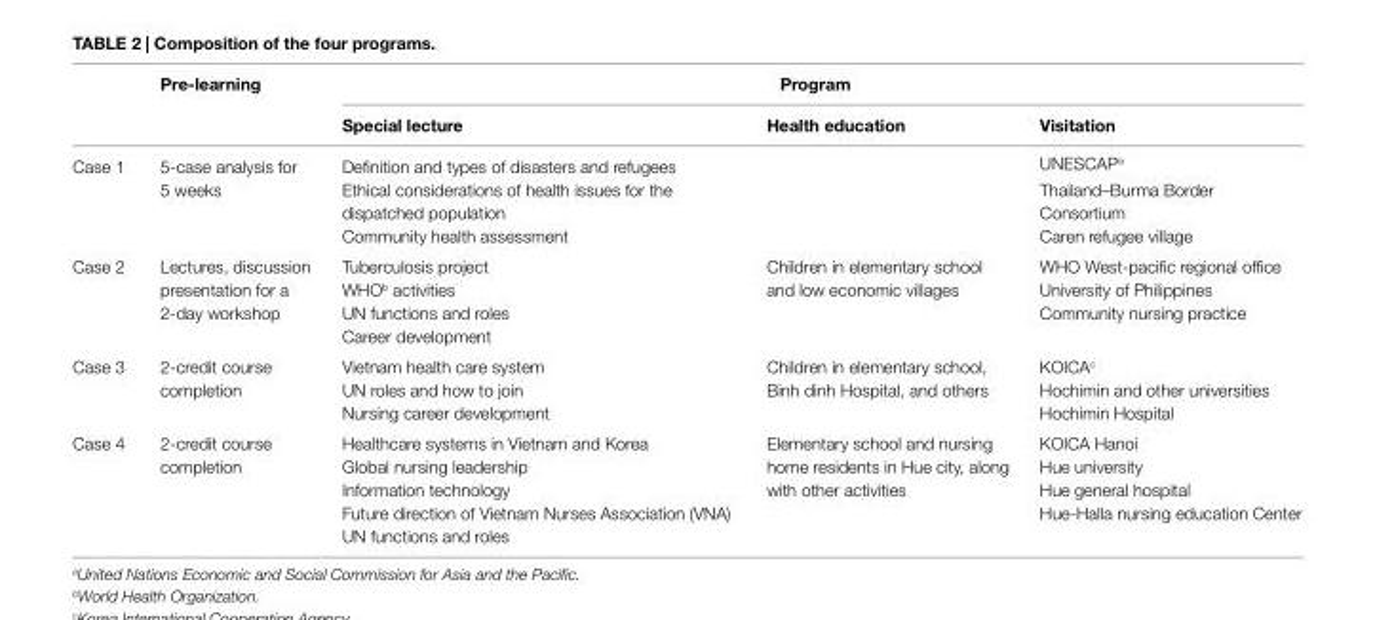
<table><thead><tr><td rowspan="2"></td><td rowspan="2">pre-learning</td><td colspan="3">program</td></tr><tr><td>special lecture</td><td>Health education</td><td>Visitation</td></tr></thead><tbody><tr><td rowspan="3">Case 1</td><td rowspan="3">5-case analysis for 5 weeks</td><td>Definition and types of disasters and refugees</td><td rowspan="3"></td><td>UNESCAP<sup>a</sup></td></tr><tr><td>Ethical considerations of health issues for the dispatched population</td><td rowspan="2">Thailand–Burma Border Consortium Caren refugee village</td></tr><tr><td>Community health assessment</td></tr><tr><td rowspan="4">Case 2</td><td rowspan="4">Lectures, discussion presentation for a 2-day workshop</td><td>Tuberculosis project</td><td rowspan="4">Children in elementary school and low economic villages</td><td>WHO West-pacific regional office</td></tr><tr><td>WHO<sup>b</sup> activities</td><td>University of Philippines</td></tr><tr><td>UN functions and roles</td><td>Community nursing practice</td></tr><tr><td>Career development</td><td></td></tr><tr><td rowspan="3">Case 3</td><td rowspan="3">2-credit course completion</td><td>Vietnam health care system</td><td rowspan="3">Children in elementary school, Binh dinh Hospital, and others</td><td>KOICA<sup>c</sup></td></tr><tr><td>UN roles and how to join</td><td>Hochimin and other universities</td></tr><tr><td>Nursing career development</td><td>Hochimin Hospital</td></tr><tr><td rowspan="5">Case 4</td><td rowspan="5">2-credit course completion</td><td>Healthcare systems in Vietnam and Korea</td><td rowspan="5">Elementary school and nursing home residents in Hue city, along with other activities</td><td>KOICA Hanoi</td></tr><tr><td>Global nursing leadership</td><td>Hue university</td></tr><tr><td>Information technology</td><td>Hue general hospital</td></tr><tr><td>Future direction of Vietnam Nurses Association (VNA)</td><td>Hue-Halla nursing education Center</td></tr><tr><td>UN functions and roles</td><td></td></tr></tbody></table>